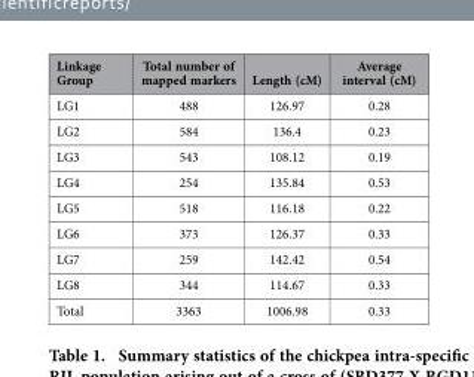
<table><thead><tr><td>Linkage Group</td><td>Total number of mapped markers</td><td>Length (cM)</td><td>Average interval (cM)</td></tr></thead><tbody><tr><td>LG1</td><td>488</td><td>126.97</td><td>0.28</td></tr><tr><td>LG2</td><td>584</td><td>136.4</td><td>0.23</td></tr><tr><td>LG3</td><td>543</td><td>108.12</td><td>0.19</td></tr><tr><td>LG4</td><td>254</td><td>135.84</td><td>0.53</td></tr><tr><td>LG5</td><td>518</td><td>116.18</td><td>0.22</td></tr><tr><td>LG6</td><td>373</td><td>126.37</td><td>0.33</td></tr><tr><td>LG7</td><td>259</td><td>142.42</td><td>0.54</td></tr><tr><td>LG8</td><td>344</td><td>114.67</td><td>0.33</td></tr><tr><td>Total</td><td>3363</td><td>1006.98</td><td>0.33</td></tr></tbody></table>